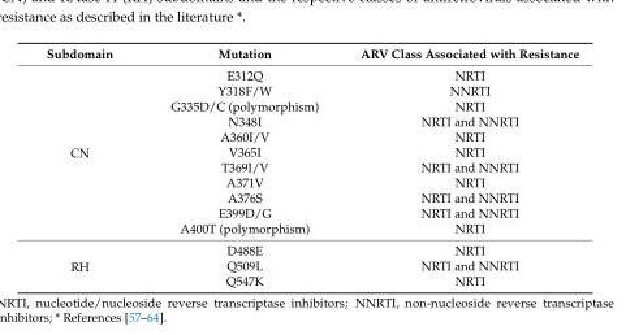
<table><thead><tr><td>Subdomain</td><td>Mutation</td><td>ARV Class Associated with Resistance</td></tr></thead><tbody><tr><td rowspan="11">CN</td><td>E312Q</td><td>NRTI</td></tr><tr><td>Y318F/W</td><td>NNRTI</td></tr><tr><td>G335D/C (polymorphism)</td><td>NRTI</td></tr><tr><td>N348I</td><td>NRTI and NNRTI</td></tr><tr><td>A360I/V</td><td>NRTI</td></tr><tr><td>V365I</td><td>NRTI</td></tr><tr><td>T369I/V</td><td>NRTI and NNRTI</td></tr><tr><td>A371V</td><td>NRTI</td></tr><tr><td>A376S</td><td>NRTI and NNRTI</td></tr><tr><td>E399D/G</td><td>NRTI and NNRTI</td></tr><tr><td>A400T (polymorphism)</td><td>NRTI</td></tr><tr><td rowspan="3">RH</td><td>D488E</td><td>NRTI</td></tr><tr><td>Q509L</td><td>NRTI and NNRTI</td></tr><tr><td>Q547K</td><td>NRTI</td></tr></tbody></table>